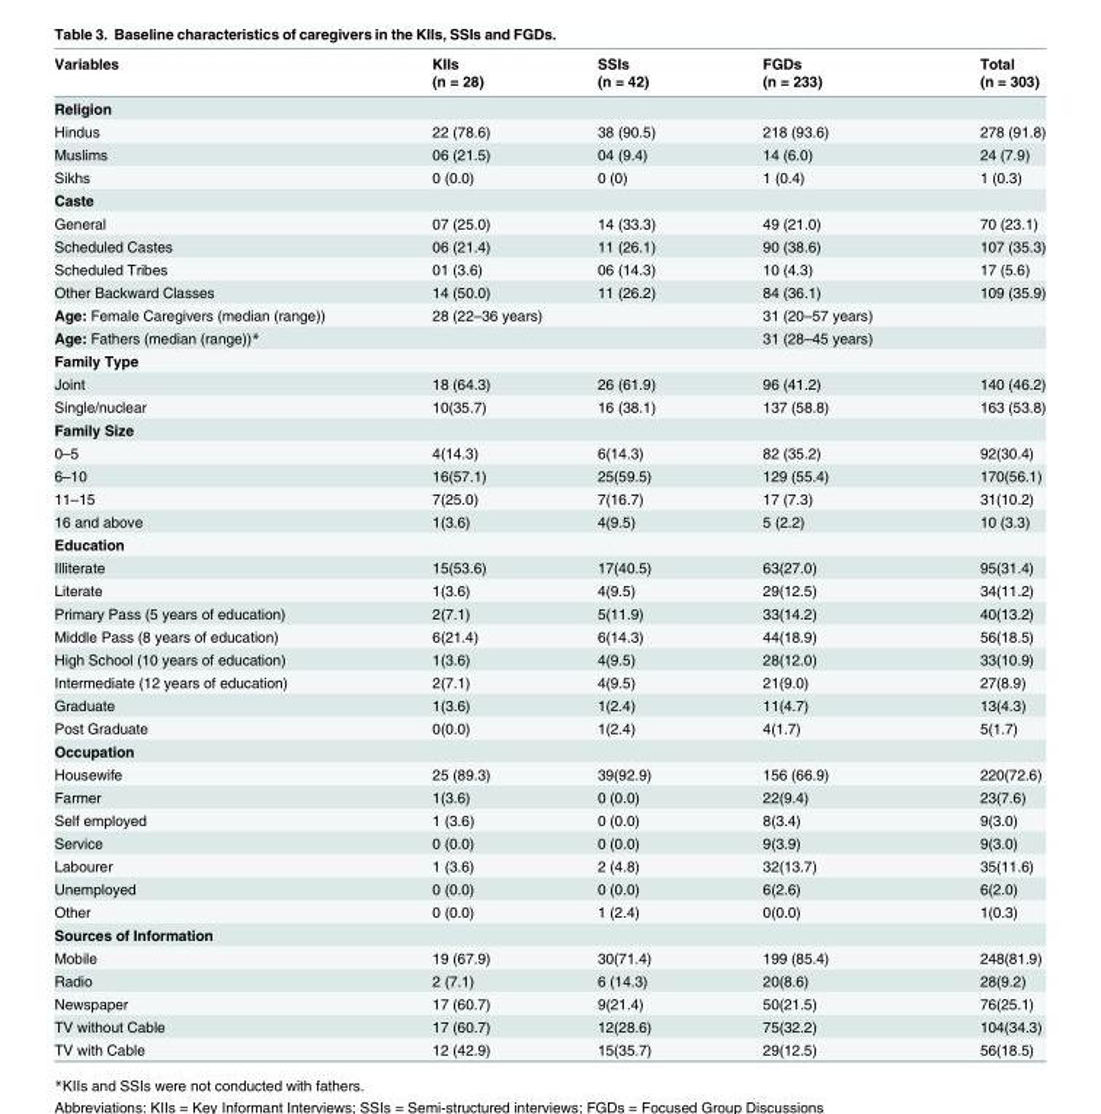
<table><thead><tr><td rowspan="2">Variables</td><td rowspan="2">KIIs (n = 28)</td><td rowspan="2">SSIs (n = 42)</td><td rowspan="2">FGDs (n = 233)</td><td rowspan="2">Total (n = 303)</td></tr><tr></tr></thead><tbody><tr><td colspan="5">Religion</td></tr><tr><td>Hindus</td><td>22 (78.6)</td><td>38 (90.5)</td><td>218 (93.6)</td><td>278 (91.8)</td></tr><tr><td>Muslims</td><td>06 (21.5)</td><td>04 (9.4)</td><td>14 (6.0)</td><td>24 (7.9)</td></tr><tr><td>Sikhs</td><td>0 (0.0)</td><td>0 (0)</td><td>1 (0.4)</td><td>1 (0.3)</td></tr><tr><td colspan="5">Caste</td></tr><tr><td>General</td><td>07 (25.0)</td><td>14 (33.3)</td><td>49 (21.0)</td><td>70 (23.1)</td></tr><tr><td>Scheduled Castes</td><td>06 (21.4)</td><td>11 (26.1)</td><td>90 (38.6)</td><td>107 (35.3)</td></tr><tr><td>Scheduled Tribes</td><td>01 (3.6)</td><td>06 (14.3)</td><td>10 (4.3)</td><td>17 (5.6)</td></tr><tr><td>Other Backward Classes</td><td>14 (50.0)</td><td>11 (26.2)</td><td>84 (36.1)</td><td>109 (35.9)</td></tr><tr><td>Age: Female Caregivers (median (range))</td><td colspan="2">28 (22–36 years)</td><td>31 (20–57 years)</td><td></td></tr><tr><td>Age: Fathers (median (range))*</td><td colspan="2"></td><td>31 (28–45 years)</td><td></td></tr><tr><td colspan="5">Family Type</td></tr><tr><td>Joint</td><td>18 (64.3)</td><td>26 (61.9)</td><td>96 (41.2)</td><td>140 (46.2)</td></tr><tr><td>Single/nuclear</td><td>10(35.7)</td><td>16 (38.1)</td><td>137 (58.8)</td><td>163 (53.8)</td></tr><tr><td colspan="5">Family Size</td></tr><tr><td>0–5</td><td>4(14.3)</td><td>6(14.3)</td><td>82 (35.2)</td><td>92(30.4)</td></tr><tr><td>6–10</td><td>16(57.1)</td><td>25(59.5)</td><td>129 (55.4)</td><td>170(56.1)</td></tr><tr><td>11–15</td><td>7(25.0)</td><td>7(16.7)</td><td>17 (7.3)</td><td>31(10.2)</td></tr><tr><td>16 and above</td><td>1(3.6)</td><td>4(9.5)</td><td>5 (2.2)</td><td>10 (3.3)</td></tr><tr><td colspan="5">Education</td></tr><tr><td>Illiterate</td><td>15(53.6)</td><td>17(40.5)</td><td>63(27.0)</td><td>95(31.4)</td></tr><tr><td>Literate</td><td>1(3.6)</td><td>4(9.5)</td><td>29(12.5)</td><td>34(11.2)</td></tr><tr><td>Primary Pass (5 years of education)</td><td>2(7.1)</td><td>5(11.9)</td><td>33(14.2)</td><td>40(13.2)</td></tr><tr><td>Middle Pass (8 years of education)</td><td>6(21.4)</td><td>6(14.3)</td><td>44(18.9)</td><td>56(18.5)</td></tr><tr><td>High School (10 years of education)</td><td>1(3.6)</td><td>4(9.5)</td><td>28(12.0)</td><td>33(10.9)</td></tr><tr><td>Intermediate (12 years of education)</td><td>2(7.1)</td><td>4(9.5)</td><td>21(9.0)</td><td>27(8.9)</td></tr><tr><td>Graduate</td><td>1(3.6)</td><td>1(2.4)</td><td>11(4.7)</td><td>13(4.3)</td></tr><tr><td>Post Graduate</td><td>0(0.0)</td><td>1(2.4)</td><td>4(1.7)</td><td>5(1.7)</td></tr><tr><td colspan="5">Occupation</td></tr><tr><td>Housewife</td><td>25 (89.3)</td><td>39(92.9)</td><td>156 (66.9)</td><td>220(72.6)</td></tr><tr><td>Farmer</td><td>1(3.6)</td><td>0 (0.0)</td><td>22(9.4)</td><td>23(7.6)</td></tr><tr><td>Self employed</td><td>1 (3.6)</td><td>0 (0.0)</td><td>8(3.4)</td><td>9(3.0)</td></tr><tr><td>Service</td><td>0 (0.0)</td><td>0 (0.0)</td><td>9(3.9)</td><td>9(3.0)</td></tr><tr><td>Labourer</td><td>1 (3.6)</td><td>2 (4.8)</td><td>32(13.7)</td><td>35(11.6)</td></tr><tr><td>Unemployed</td><td>0 (0.0)</td><td>0 (0.0)</td><td>6(2.6)</td><td>6(2.0)</td></tr><tr><td>Other</td><td>0 (0.0)</td><td>1 (2.4)</td><td>0(0.0)</td><td>1(0.3)</td></tr><tr><td colspan="5">Sources of Information</td></tr><tr><td>Mobile</td><td>19 (67.9)</td><td>30(71.4)</td><td>199 (85.4)</td><td>248(81.9)</td></tr><tr><td>Radio</td><td>2 (7.1)</td><td>6 (14.3)</td><td>20(8.6)</td><td>28(9.2)</td></tr><tr><td>Newspaper</td><td>17 (60.7)</td><td>9(21.4)</td><td>50(21.5)</td><td>76(25.1)</td></tr><tr><td>TV without Cable</td><td>17 (60.7)</td><td>12(28.6)</td><td>75(32.2)</td><td>104(34.3)</td></tr><tr><td>TV with Cable</td><td>12 (42.9)</td><td>15(35.7)</td><td>29(12.5)</td><td>56(18.5)</td></tr></tbody></table>